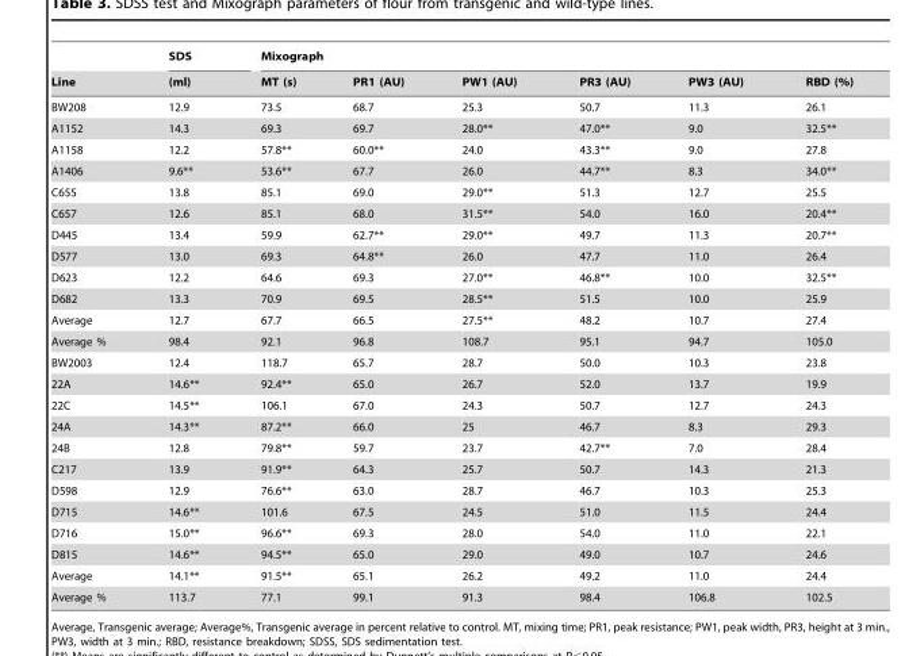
<table><thead><tr><td rowspan="2">Line</td><td rowspan="2">SDS (ml)</td><td colspan="6">Mixograph</td></tr><tr><td>MT (s)</td><td>PR1 (AU)</td><td>PW1 (AU)</td><td>PR3 (AU)</td><td>PW3 (AU)</td><td>RBD (%)</td></tr></thead><tbody><tr><td>BW208</td><td>12.9</td><td>73.5</td><td>68.7</td><td>25.3</td><td>50.7</td><td>11.3</td><td>26.1</td></tr><tr><td>A1152</td><td>14.3</td><td>69.3</td><td>69.7</td><td>28.0**</td><td>47.0**</td><td>9.0</td><td>32.5**</td></tr><tr><td>A1158</td><td>12.2</td><td>57.8**</td><td>60.0**</td><td>24.0</td><td>43.3**</td><td>9.0</td><td>27.8</td></tr><tr><td>A1406</td><td>9.6**</td><td>53.6**</td><td>67.7</td><td>26.0</td><td>44.7**</td><td>8.3</td><td>34.0**</td></tr><tr><td>C655</td><td>13.8</td><td>85.1</td><td>69.0</td><td>29.0**</td><td>51.3</td><td>12.7</td><td>25.5</td></tr><tr><td>C657</td><td>12.6</td><td>85.1</td><td>68.0</td><td>31.5**</td><td>54.0</td><td>16.0</td><td>20.4**</td></tr><tr><td>D445</td><td>13.4</td><td>59.9</td><td>62.7**</td><td>29.0**</td><td>49.7</td><td>11.3</td><td>20.7**</td></tr><tr><td>D577</td><td>13.0</td><td>69.3</td><td>64.8**</td><td>26.0</td><td>47.7</td><td>11.0</td><td>26.4</td></tr><tr><td>D623</td><td>12.2</td><td>64.6</td><td>69.3</td><td>27.0**</td><td>46.8**</td><td>10.0</td><td>32.5**</td></tr><tr><td>D682</td><td>13.3</td><td>70.9</td><td>69.5</td><td>28.5**</td><td>51.5</td><td>10.0</td><td>25.9</td></tr><tr><td>Average</td><td>12.7</td><td>67.7</td><td>66.5</td><td>27.5**</td><td>48.2</td><td>10.7</td><td>27.4</td></tr><tr><td>Average %</td><td>98.4</td><td>92.1</td><td>96.8</td><td>108.7</td><td>95.1</td><td>94.7</td><td>105.0</td></tr><tr><td>BW2003</td><td>12.4</td><td>118.7</td><td>65.7</td><td>28.7</td><td>50.0</td><td>10.3</td><td>23.8</td></tr><tr><td>22A</td><td>14.6**</td><td>92.4**</td><td>65.0</td><td>26.7</td><td>52.0</td><td>13.7</td><td>19.9</td></tr><tr><td>22C</td><td>14.5**</td><td>106.1</td><td>67.0</td><td>24.3</td><td>50.7</td><td>12.7</td><td>24.3</td></tr><tr><td>24A</td><td>14.3**</td><td>87.2**</td><td>66.0</td><td>25</td><td>46.7</td><td>8.3</td><td>29.3</td></tr><tr><td>24B</td><td>12.8</td><td>79.8**</td><td>59.7</td><td>23.7</td><td>42.7**</td><td>7.0</td><td>28.4</td></tr><tr><td>C217</td><td>13.9</td><td>91.9**</td><td>64.3</td><td>25.7</td><td>50.7</td><td>14.3</td><td>21.3</td></tr><tr><td>D598</td><td>12.9</td><td>76.6**</td><td>63.0</td><td>28.7</td><td>46.7</td><td>10.3</td><td>25.3</td></tr><tr><td>D715</td><td>14.6**</td><td>101.6</td><td>67.5</td><td>24.5</td><td>51.0</td><td>11.5</td><td>24.4</td></tr><tr><td>D716</td><td>15.0**</td><td>96.6**</td><td>69.3</td><td>28.0</td><td>54.0</td><td>11.0</td><td>22.1</td></tr><tr><td>D815</td><td>14.6**</td><td>94.5**</td><td>65.0</td><td>29.0</td><td>49.0</td><td>10.7</td><td>24.6</td></tr><tr><td>Average</td><td>14.1**</td><td>91.5**</td><td>65.1</td><td>26.2</td><td>49.2</td><td>11.0</td><td>24.4</td></tr><tr><td>Average %</td><td>113.7</td><td>77.1</td><td>99.1</td><td>91.3</td><td>98.4</td><td>106.8</td><td>102.5</td></tr></tbody></table>